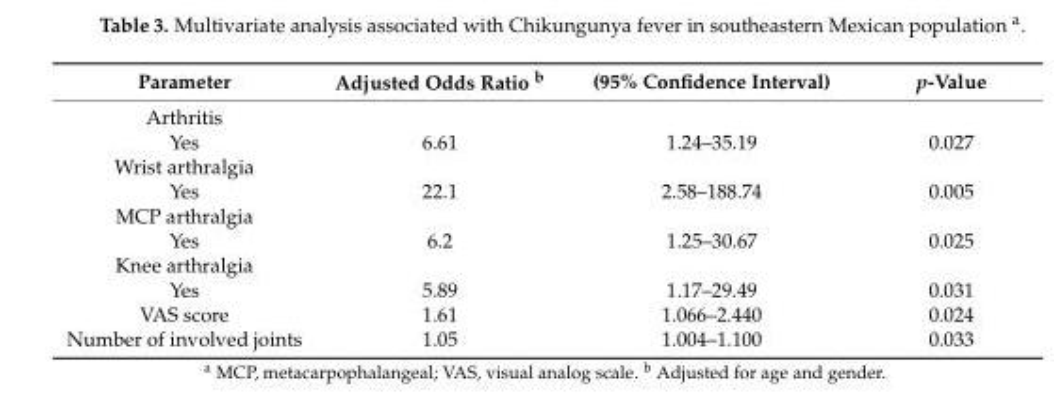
<table><thead><tr><td>Parameter</td><td>Adjusted Odds Ratio <sup>b</sup></td><td>(95% Confidence Interval)</td><td>p-Value</td></tr></thead><tbody><tr><td colspan="4">Arthritis</td></tr><tr><td>Yes</td><td>6.61</td><td>1.24–35.19</td><td>0.027</td></tr><tr><td colspan="4">Wrist arthralgia</td></tr><tr><td>Yes</td><td>22.1</td><td>2.58–188.74</td><td>0.005</td></tr><tr><td colspan="4">MCP arthralgia</td></tr><tr><td>Yes</td><td>6.2</td><td>1.25–30.67</td><td>0.025</td></tr><tr><td colspan="4">Knee arthralgia</td></tr><tr><td>Yes</td><td>5.89</td><td>1.17–29.49</td><td>0.031</td></tr><tr><td>VAS score</td><td>1.61</td><td>1.066–2.440</td><td>0.024</td></tr><tr><td>Number of involved joints</td><td>1.05</td><td>1.004–1.100</td><td>0.033</td></tr></tbody></table>